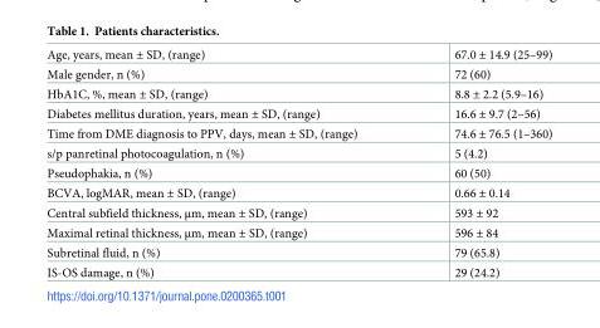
<table><tbody><tr><td>Age, years, mean ± SD, (range)</td><td>67.0 ± 14.9 (25–99)</td></tr><tr><td>Male gender, n (%)</td><td>72 (60)</td></tr><tr><td>HbA1C, %, mean ± SD, (range)</td><td>8.8 ± 2.2 (5.9–16)</td></tr><tr><td>Diabetes mellitus duration, years, mean ± SD, (range)</td><td>16.6 ± 9.7 (2–56)</td></tr><tr><td>Time from DME diagnosis to PPV, days, mean ± SD, (range)</td><td>74.6 ± 76.5 (1–360)</td></tr><tr><td>s/p panretinal photocoagulation, n (%)</td><td>5 (4.2)</td></tr><tr><td>Pseudophakia, n (%)</td><td>60 (50)</td></tr><tr><td>BCVA, logMAR, mean ± SD, (range)</td><td>0.66 ± 0.14</td></tr><tr><td>Central subfield thickness, μm, mean ± SD, (range)</td><td>593 ± 92</td></tr><tr><td>Maximal retinal thickness, μm, mean ± SD, (range)</td><td>596 ± 84</td></tr><tr><td>Subretinal fluid, n (%)</td><td>79 (65.8)</td></tr><tr><td>IS-OS damage, n (%)</td><td>29 (24.2)</td></tr></tbody></table>